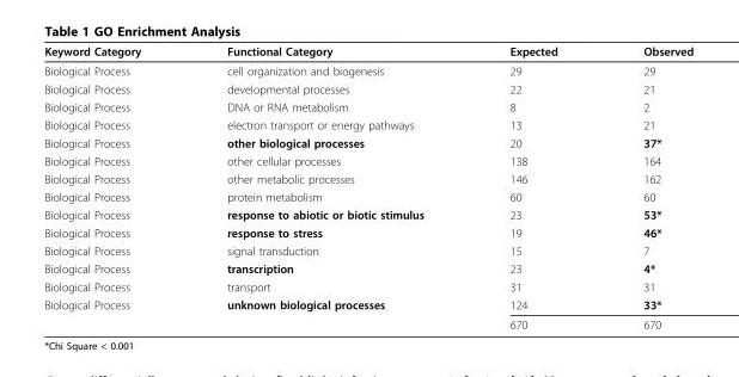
<table><thead><tr><td>Keyword Category</td><td>Functional Category</td><td>Expected</td><td>Observed</td></tr></thead><tbody><tr><td>Biological Process</td><td>cell organization and biogenesis</td><td>29</td><td>29</td></tr><tr><td>Biological Process</td><td>developmental processes</td><td>22</td><td>21</td></tr><tr><td>Biological Process</td><td>DNA or RNA metabolism</td><td>8</td><td>2</td></tr><tr><td>Biological Process</td><td>electron transport or energy pathways</td><td>13</td><td>21</td></tr><tr><td>Biological Process</td><td>other biological processes</td><td>20</td><td>37*</td></tr><tr><td>Biological Process</td><td>other cellular processes</td><td>138</td><td>164</td></tr><tr><td>Biological Process</td><td>other metabolic processes</td><td>146</td><td>162</td></tr><tr><td>Biological Process</td><td>protein metabolism</td><td>60</td><td>60</td></tr><tr><td>Biological Process</td><td>response to abiotic or biotic stimulus</td><td>23</td><td>53*</td></tr><tr><td>Biological Process</td><td>response to stress</td><td>19</td><td>46*</td></tr><tr><td>Biological Process</td><td>signal transduction</td><td>15</td><td>7</td></tr><tr><td>Biological Process</td><td>transcription</td><td>23</td><td>4*</td></tr><tr><td>Biological Process</td><td>transport</td><td>31</td><td>31</td></tr><tr><td rowspan="2">Biological Process</td><td>unknown biological processes</td><td>124</td><td>33*</td></tr><tr><td></td><td>670</td><td>670</td></tr></tbody></table>